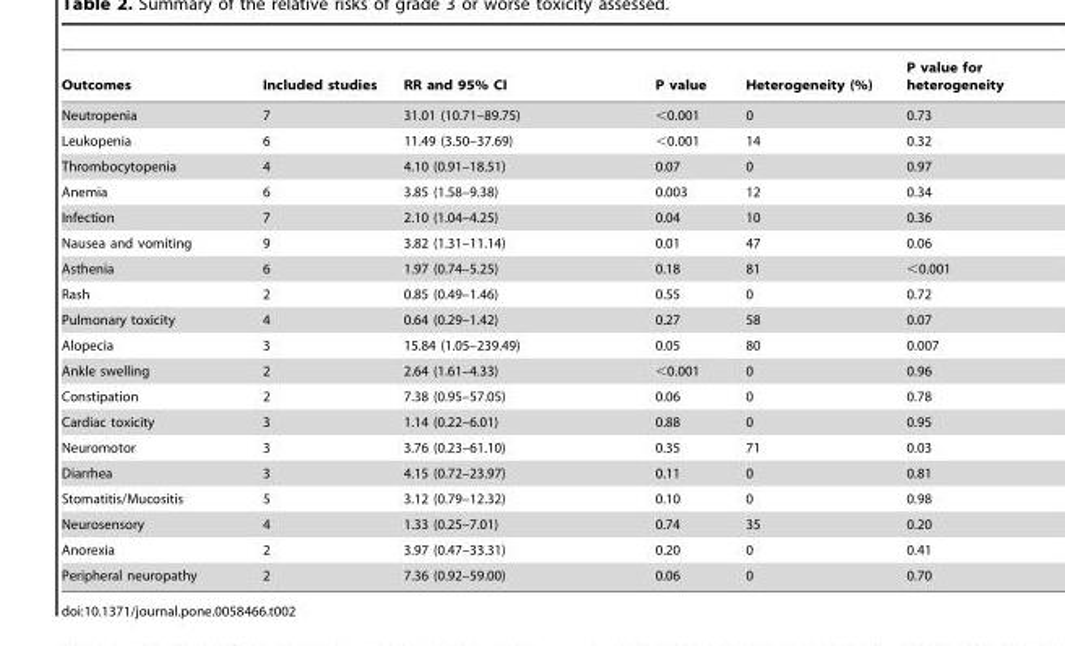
<table><thead><tr><td>Outcomes</td><td>Included studies</td><td>RR and 95% CI</td><td>P value</td><td>Heterogeneity (%)</td><td>P value for heterogeneity</td></tr></thead><tbody><tr><td>Neutropenia</td><td>7</td><td>31.01 (10.71–89.75)</td><td>&lt;0.001</td><td>0</td><td>0.73</td></tr><tr><td>Leukopenia</td><td>6</td><td>11.49 (3.50–37.69)</td><td>&lt;0.001</td><td>14</td><td>0.32</td></tr><tr><td>Thrombocytopenia</td><td>4</td><td>4.10 (0.91–18.51)</td><td>0.07</td><td>0</td><td>0.97</td></tr><tr><td>Anemia</td><td>6</td><td>3.85 (1.58–9.38)</td><td>0.003</td><td>12</td><td>0.34</td></tr><tr><td>Infection</td><td>7</td><td>2.10 (1.04–4.25)</td><td>0.04</td><td>10</td><td>0.36</td></tr><tr><td>Nausea and vomiting</td><td>9</td><td>3.82 (1.31–11.14)</td><td>0.01</td><td>47</td><td>0.06</td></tr><tr><td>Asthenia</td><td>6</td><td>1.97 (0.74–5.25)</td><td>0.18</td><td>81</td><td>&lt;0.001</td></tr><tr><td>Rash</td><td>2</td><td>0.85 (0.49–1.46)</td><td>0.55</td><td>0</td><td>0.72</td></tr><tr><td>Pulmonary toxicity</td><td>4</td><td>0.64 (0.29–1.42)</td><td>0.27</td><td>58</td><td>0.07</td></tr><tr><td>Alopecia</td><td>3</td><td>15.84 (1.05–239.49)</td><td>0.05</td><td>80</td><td>0.007</td></tr><tr><td>Ankle swelling</td><td>2</td><td>2.64 (1.61–4.33)</td><td>&lt;0.001</td><td>0</td><td>0.96</td></tr><tr><td>Constipation</td><td>2</td><td>7.38 (0.95–57.05)</td><td>0.06</td><td>0</td><td>0.78</td></tr><tr><td>Cardiac toxicity</td><td>3</td><td>1.14 (0.22–6.01)</td><td>0.88</td><td>0</td><td>0.95</td></tr><tr><td>Neuromotor</td><td>3</td><td>3.76 (0.23–61.10)</td><td>0.35</td><td>71</td><td>0.03</td></tr><tr><td>Diarrhea</td><td>3</td><td>4.15 (0.72–23.97)</td><td>0.11</td><td>0</td><td>0.81</td></tr><tr><td>Stomatitis/Mucositis</td><td>5</td><td>3.12 (0.79–12.32)</td><td>0.10</td><td>0</td><td>0.98</td></tr><tr><td>Neurosensory</td><td>4</td><td>1.33 (0.25–7.01)</td><td>0.74</td><td>35</td><td>0.20</td></tr><tr><td>Anorexia</td><td>2</td><td>3.97 (0.47–33.31)</td><td>0.20</td><td>0</td><td>0.41</td></tr><tr><td>Peripheral neuropathy</td><td>2</td><td>7.36 (0.92–59.00)</td><td>0.06</td><td>0</td><td>0.70</td></tr></tbody></table>